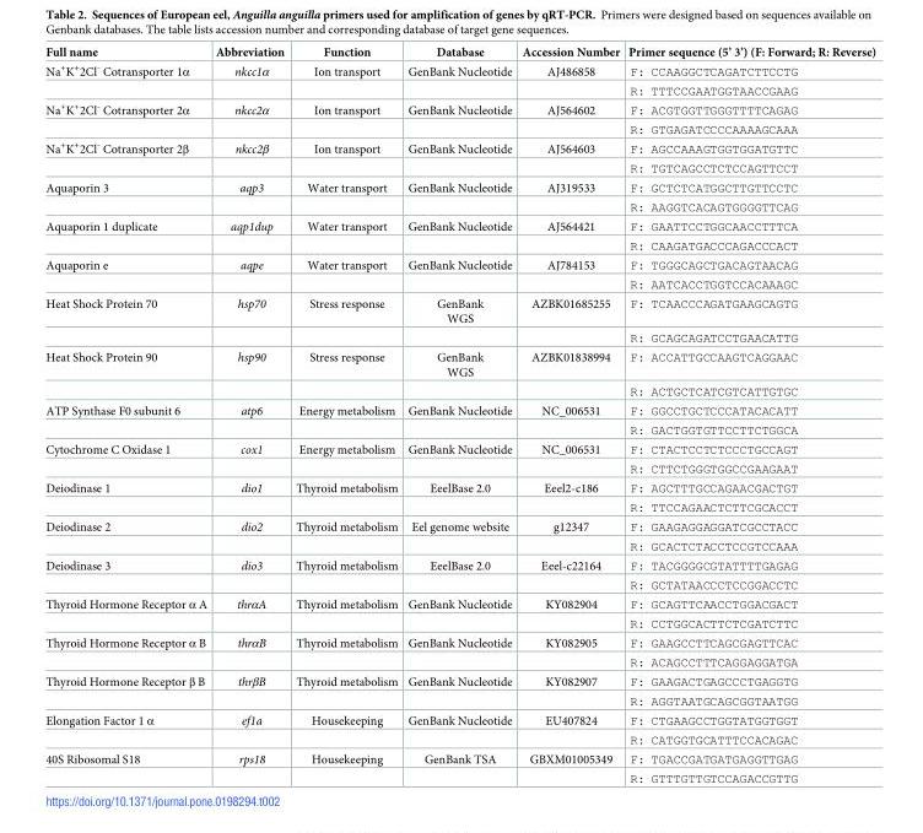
<table><thead><tr><td>Full name</td><td>Abbreviation</td><td>Function</td><td>Database</td><td>Accession Number</td><td>Primer sequence (5’ 3’) (F: Forward; R: Reverse)</td></tr></thead><tbody><tr><td rowspan="2">Na<sup>+</sup>K<sup>+</sup>2Cl<sup>-</sup> Cotransporter 1α</td><td>nkcc1α</td><td>Ion transport</td><td>GenBank Nucleotide</td><td>AJ486858</td><td>F: CCAAGGCTCAGATCTTCCTG</td></tr><tr><td></td><td></td><td></td><td></td><td>R: TTTCCGAATGGTAACCGAAG</td></tr><tr><td rowspan="2">Na<sup>+</sup>K<sup>+</sup>2Cl<sup>-</sup> Cotransporter 2α</td><td>nkcc2α</td><td>Ion transport</td><td>GenBank Nucleotide</td><td>AJ564602</td><td>F: ACGTGGTTGGGTTTTCAGAG</td></tr><tr><td></td><td></td><td></td><td></td><td>R: GTGAGATCCCCAAAAGCAAA</td></tr><tr><td rowspan="2">Na<sup>+</sup>K<sup>+</sup>2Cl<sup>-</sup> Cotransporter 2β</td><td>nkcc2β</td><td>Ion transport</td><td>GenBank Nucleotide</td><td>AJ564603</td><td>F: AGCCAAAGTGGTGGATGTTC</td></tr><tr><td></td><td></td><td></td><td></td><td>R: TGTCAGCCTCTCCAGTTCCT</td></tr><tr><td rowspan="2">Aquaporin 3</td><td>aqp3</td><td>Water transport</td><td>GenBank Nucleotide</td><td>AJ319533</td><td>F: GCTCTCATGGCTTGTTCCTC</td></tr><tr><td></td><td></td><td></td><td></td><td>R: AAGGTCACAGTGGGGTTCAG</td></tr><tr><td rowspan="2">Aquaporin 1 duplicate</td><td>aqp1dup</td><td>Water transport</td><td>GenBank Nucleotide</td><td>AJ564421</td><td>F: GAATTCCTGGCAACCTTTCA</td></tr><tr><td></td><td></td><td></td><td></td><td>R: CAAGATGACCCAGACCCACT</td></tr><tr><td rowspan="2">Aquaporin e</td><td>aqpe</td><td>Water transport</td><td>GenBank Nucleotide</td><td>AJ784153</td><td>F: TGGGCAGCTGACAGTAACAG</td></tr><tr><td></td><td></td><td></td><td></td><td>R: AATCACCTGGTCCACAAAGC</td></tr><tr><td rowspan="2">Heat Shock Protein 70</td><td>hsp70</td><td>Stress response</td><td>GenBank WGS</td><td>AZBK01685255</td><td>F: TCAACCCAGATGAAGCAGTG</td></tr><tr><td></td><td></td><td></td><td></td><td>R: GCAGCAGATCCTGAACATTG</td></tr><tr><td rowspan="2">Heat Shock Protein 90</td><td>hsp90</td><td>Stress response</td><td>GenBank WGS</td><td>AZBK01838994</td><td>F: ACCATTGCCAAGTCAGGAAC</td></tr><tr><td></td><td></td><td></td><td></td><td>R: ACTGCTCATCGTCATTGTGC</td></tr><tr><td rowspan="2">ATP Synthase F0 subunit 6</td><td>atp6</td><td>Energy metabolism</td><td>GenBank Nucleotide</td><td>NC_006531</td><td>F: GGCCTGCTCCCATACACATT</td></tr><tr><td></td><td></td><td></td><td></td><td>R: GACTGGTGTTCCTTCTGGCA</td></tr><tr><td rowspan="2">Cytochrome C Oxidase 1</td><td>cox1</td><td>Energy metabolism</td><td>GenBank Nucleotide</td><td>NC_006531</td><td>F: CTACTCCTCTCCCTGCCAGT</td></tr><tr><td></td><td></td><td></td><td></td><td>R: CTTCTGGGTGGCCGAAGAAT</td></tr><tr><td rowspan="2">Deiodinase 1</td><td>dio1</td><td>Thyroid metabolism</td><td>EeelBase 2.0</td><td>Eeel2-c186</td><td>F: AGCTTTGCCAGAACGACTGT</td></tr><tr><td></td><td></td><td></td><td></td><td>R: TTCCAGAACTCTTCGCACCT</td></tr><tr><td rowspan="2">Deiodinase 2</td><td>dio2</td><td>Thyroid metabolism</td><td>Eel genome website</td><td>g12347</td><td>F: GAAGAGGAGGATCGCCTACC</td></tr><tr><td></td><td></td><td></td><td></td><td>R: GCACTCTACCTCCGTCCAAA</td></tr><tr><td rowspan="2">Deiodinase 3</td><td>dio3</td><td>Thyroid metabolism</td><td>EeelBase 2.0</td><td>Eeel-c22164</td><td>F: TACGGGGCGTATTTTGAGAG</td></tr><tr><td></td><td></td><td></td><td></td><td>R: GCTATAACCCTCCGGACCTC</td></tr><tr><td rowspan="2">Thyroid Hormone Receptor α A</td><td>thrαA</td><td>Thyroid metabolism</td><td>GenBank Nucleotide</td><td>KY082904</td><td>F: GCAGTTCAACCTGGACGACT</td></tr><tr><td></td><td></td><td></td><td></td><td>R: CCTGGCACTTCTCGATCTTC</td></tr><tr><td rowspan="2">Thyroid Hormone Receptor α B</td><td>thrαB</td><td>Thyroid metabolism</td><td>GenBank Nucleotide</td><td>KY082905</td><td>F: GAAGCCTTCAGCGAGTTCAC</td></tr><tr><td></td><td></td><td></td><td></td><td>R: ACAGCCTTTCAGGAGGATGA</td></tr><tr><td rowspan="2">Thyroid Hormone Receptor β B</td><td>thrβB</td><td>Thyroid metabolism</td><td>GenBank Nucleotide</td><td>KY082907</td><td>F: GAAGACTGAGCCCTGAGGTG</td></tr><tr><td></td><td></td><td></td><td></td><td>R: AGGTAATGCAGCGGTAATGG</td></tr><tr><td rowspan="2">Elongation Factor 1 α</td><td>ef1a</td><td>Housekeeping</td><td>GenBank Nucleotide</td><td>EU407824</td><td>F: CTGAAGCCTGGTATGGTGGT</td></tr><tr><td></td><td></td><td></td><td></td><td>R: CATGGTGCATTTCCACAGAC</td></tr><tr><td rowspan="2">40S Ribosomal S18</td><td>rps18</td><td>Housekeeping</td><td>GenBank TSA</td><td>GBXM01005349</td><td>F: TGACCGATGATGAGGTTGAG</td></tr><tr><td></td><td></td><td></td><td></td><td>R: GTTTGTTGTCCAGACCGTTG</td></tr></tbody></table>